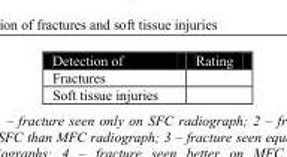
<table><thead><tr><td>Detection of</td><td>Rating</td></tr></thead><tbody><tr><td colspan="2">Fractures</td></tr><tr><td>Soft tissue injuries</td><td></td></tr></tbody></table>